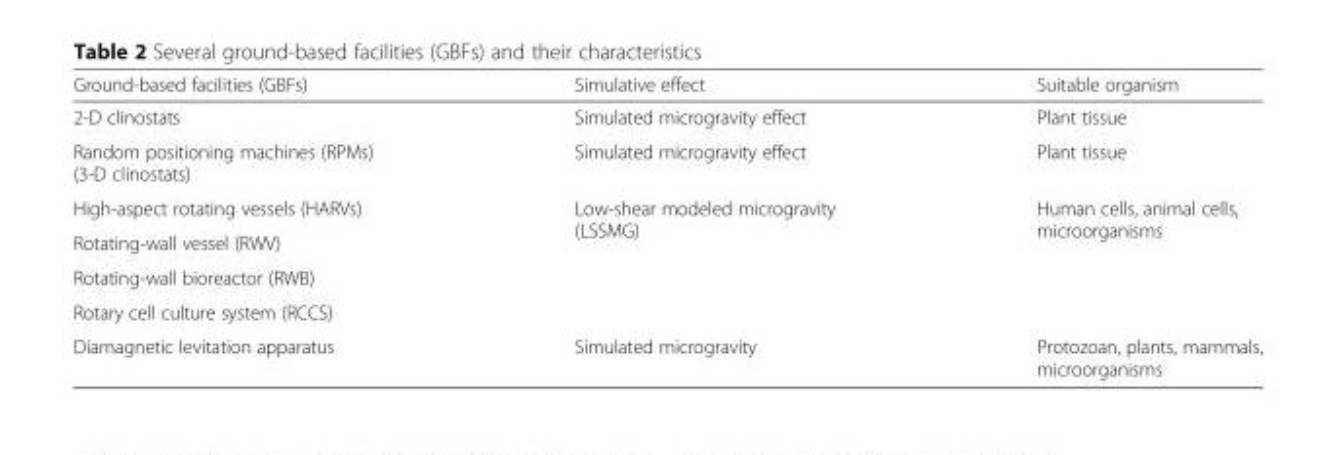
<table><thead><tr><td>Ground-based facilities (GBFs)</td><td>Simulative effect</td><td>Suitable organism</td></tr></thead><tbody><tr><td>2-D clinostats</td><td>Simulated microgravity effect</td><td>Plant tissue</td></tr><tr><td>Random positioning machines (RPMs) (3-D clinostats)</td><td>Simulated microgravity effect</td><td>Plant tissue</td></tr><tr><td>High-aspect rotating vessels (HARVs)</td><td rowspan="4">Low-shear modeled microgravity (LSSMG)</td><td rowspan="4">Human cells, animal cells, microorganisms</td></tr><tr><td>Rotating-wall vessel (RWV)</td></tr><tr><td>Rotating-wall bioreactor (RWB)</td></tr><tr><td>Rotary cell culture system (RCCS)</td></tr><tr><td>Diamagnetic levitation apparatus</td><td>Simulated microgravity</td><td>Protozoan, plants, mammals, microorganisms</td></tr></tbody></table>